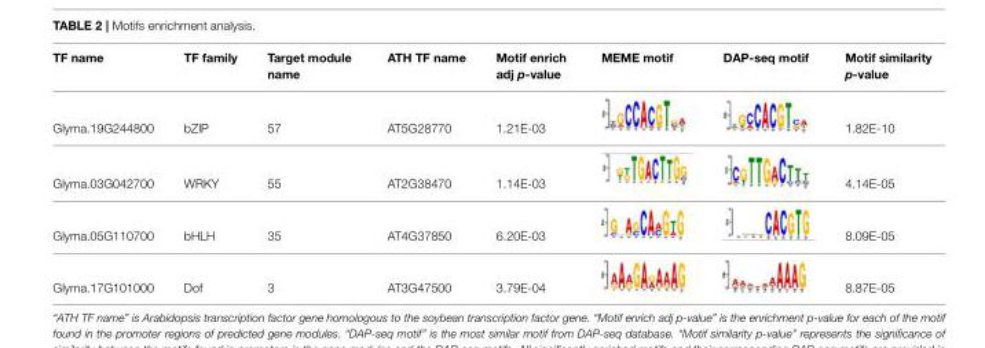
<table><thead><tr><td>TF name</td><td>TF family</td><td>Target module name</td><td>ATH TF name</td><td>Motif enrich adj p-value</td><td>MEME motif</td><td>DAP-seq motif</td><td>Motif similarity p-value</td></tr></thead><tbody><tr><td>Glyma.19G244800</td><td>bZIP</td><td>57</td><td>AT5G28770</td><td>1.21E-03</td><td></td><td></td><td>1.82E-10</td></tr><tr><td>Glyma.03G042700</td><td>WRKY</td><td>55</td><td>AT2G38470</td><td>1.14E-03</td><td></td><td></td><td>4.14E-05</td></tr><tr><td>Glyma.05G110700</td><td>bHLH</td><td>35</td><td>AT4G37850</td><td>6.20E-03</td><td></td><td></td><td>8.09E-05</td></tr><tr><td>Glyma.17G101000</td><td>Dof</td><td>3</td><td>AT3G47500</td><td>3.79E-04</td><td></td><td></td><td>8.87E-05</td></tr></tbody></table>